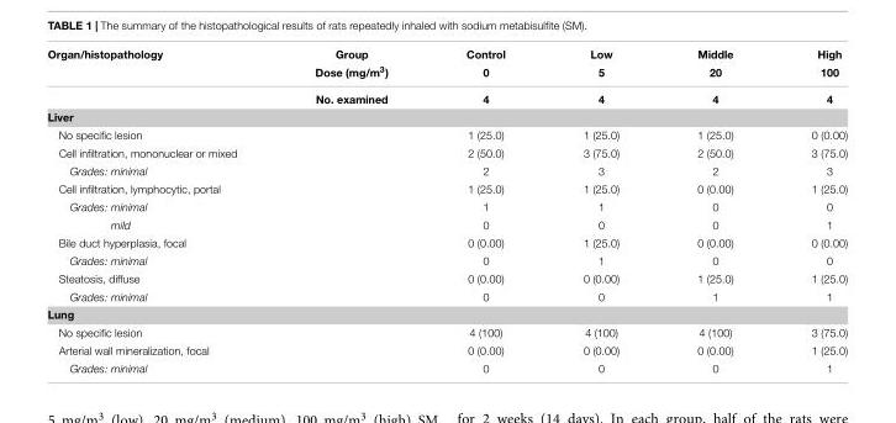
<table><thead><tr><td rowspan="2">Organ/histopathology</td><td rowspan="2">Group Dose (mg/m3)</td><td rowspan="2">Control 0</td><td rowspan="2">Low 5</td><td rowspan="2">Middle 20</td><td rowspan="2">High 100</td></tr><tr></tr></thead><tbody><tr><td></td><td>No. examined</td><td>4</td><td>4</td><td>4</td><td>4</td></tr><tr><td colspan="6">Liver</td></tr><tr><td>No specific lesion</td><td></td><td>1 (25.0)</td><td>1 (25.0)</td><td>1 (25.0)</td><td>0 (0.00)</td></tr><tr><td>Cell infiltration, mononuclear or mixed</td><td></td><td>2 (50.0)</td><td>3 (75.0)</td><td>2 (50.0)</td><td>3 (75.0)</td></tr><tr><td>Grades: minimal</td><td></td><td>2</td><td>3</td><td>2</td><td>3</td></tr><tr><td>Cell infiltration, lymphocytic, portal</td><td></td><td>1 (25.0)</td><td>1 (25.0)</td><td>0 (0.00)</td><td>1 (25.0)</td></tr><tr><td>Grades: minimal</td><td></td><td>1</td><td>1</td><td>0</td><td>0</td></tr><tr><td>mild</td><td></td><td>0</td><td>0</td><td>0</td><td>1</td></tr><tr><td>Bile duct hyperplasia, focal</td><td></td><td>0 (0.00)</td><td>1 (25.0)</td><td>0 (0.00)</td><td>0 (0.00)</td></tr><tr><td>Grades: minimal</td><td></td><td>0</td><td>1</td><td>0</td><td>0</td></tr><tr><td>Steatosis, diffuse</td><td></td><td>0 (0.00)</td><td>0 (0.00)</td><td>1 (25.0)</td><td>1 (25.0)</td></tr><tr><td>Grades: minimal</td><td></td><td>0</td><td>0</td><td>1</td><td>1</td></tr><tr><td colspan="6">Lung</td></tr><tr><td>No specific lesion</td><td></td><td>4 (100)</td><td>4 (100)</td><td>4 (100)</td><td>3 (75.0)</td></tr><tr><td>Arterial wall mineralization, focal</td><td></td><td>0 (0.00)</td><td>0 (0.00)</td><td>0 (0.00)</td><td>1 (25.0)</td></tr><tr><td>Grades: minimal</td><td></td><td>0</td><td>0</td><td>0</td><td>1</td></tr></tbody></table>